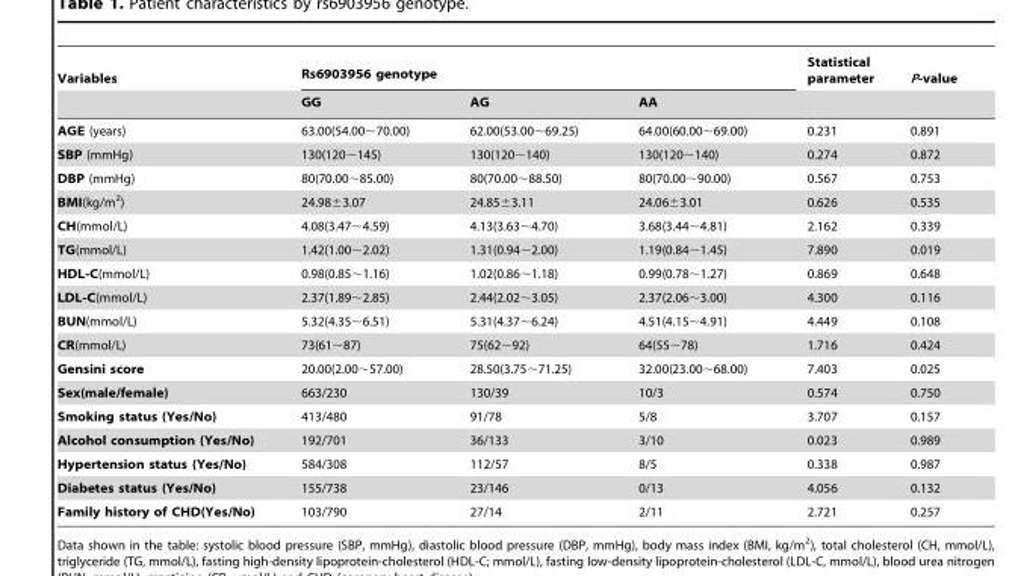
<table><thead><tr><td rowspan="2">Variables</td><td colspan="3">Rs6903956 genotype</td><td rowspan="2">Statistical parameter</td><td rowspan="2">P-value</td></tr><tr><td>GG</td><td>AG</td><td>AA</td></tr></thead><tbody><tr><td>AGE (years)</td><td>63.00(54.00∼70.00)</td><td>62.00(53.00∼69.25)</td><td>64.00(60.00∼69.00)</td><td>0.231</td><td>0.891</td></tr><tr><td>SBP (mmHg)</td><td>130(120∼145)</td><td>130(120∼140)</td><td>130(120∼140)</td><td>0.274</td><td>0.872</td></tr><tr><td>DBP (mmHg)</td><td>80(70.00∼85.00)</td><td>80(70.00∼88.50)</td><td>80(70.00∼90.00)</td><td>0.567</td><td>0.753</td></tr><tr><td>BMI(kg/m<sup>2</sup>)</td><td>24.98±3.07</td><td>24.85±3.11</td><td>24.06±3.01</td><td>0.626</td><td>0.535</td></tr><tr><td>CH(mmol/L)</td><td>4.08(3.47∼4.59)</td><td>4.13(3.63∼4.70)</td><td>3.68(3.44∼4.81)</td><td>2.162</td><td>0.339</td></tr><tr><td>TG(mmol/L)</td><td>1.42(1.00∼2.02)</td><td>1.31(0.94∼2.00)</td><td>1.19(0.84∼1.45)</td><td>7.890</td><td>0.019</td></tr><tr><td>HDL-C(mmol/L)</td><td>0.98(0.85∼1.16)</td><td>1.02(0.86∼1.18)</td><td>0.99(0.78∼1.27)</td><td>0.869</td><td>0.648</td></tr><tr><td>LDL-C(mmol/L)</td><td>2.37(1.89∼2.85)</td><td>2.44(2.02∼3.05)</td><td>2.37(2.06∼3.00)</td><td>4.300</td><td>0.116</td></tr><tr><td>BUN(mmol/L)</td><td>5.32(4.35∼6.51)</td><td>5.31(4.37∼6.24)</td><td>4.51(4.15∼4.91)</td><td>4.449</td><td>0.108</td></tr><tr><td>CR(mmol/L)</td><td>73(61∼87)</td><td>75(62∼92)</td><td>64(55∼78)</td><td>1.716</td><td>0.424</td></tr><tr><td>Gensini score</td><td>20.00(2.00∼57.00)</td><td>28.50(3.75∼71.25)</td><td>32.00(23.00∼68.00)</td><td>7.403</td><td>0.025</td></tr><tr><td>Sex(male/female)</td><td>663/230</td><td>130/39</td><td>10/3</td><td>0.574</td><td>0.750</td></tr><tr><td>Smoking status (Yes/No)</td><td>413/480</td><td>91/78</td><td>5/8</td><td>3.707</td><td>0.157</td></tr><tr><td>Alcohol consumption (Yes/No)</td><td>192/701</td><td>36/133</td><td>3/10</td><td>0.023</td><td>0.989</td></tr><tr><td>Hypertension status (Yes/No)</td><td>584/308</td><td>112/57</td><td>8/5</td><td>0.338</td><td>0.987</td></tr><tr><td>Diabetes status (Yes/No)</td><td>155/738</td><td>23/146</td><td>0/13</td><td>4.056</td><td>0.132</td></tr><tr><td>Family history of CHD(Yes/No)</td><td>103/790</td><td>27/14</td><td>2/11</td><td>2.721</td><td>0.257</td></tr></tbody></table>